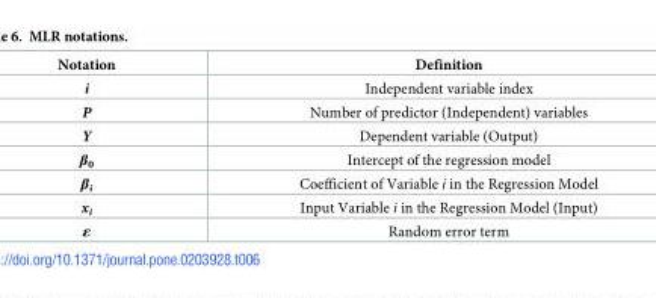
<table><thead><tr><td>Notation</td><td>Definition</td></tr></thead><tbody><tr><td>i</td><td>Independent variable index</td></tr><tr><td>P</td><td>Number of predictor (Independent) variables</td></tr><tr><td>Y</td><td>Dependent variable (Output)</td></tr><tr><td>β<sub>0</sub></td><td>Intercept of the regression model</td></tr><tr><td>β<sub>i</sub></td><td>Coefficient of Variable i in the Regression Model</td></tr><tr><td>x<sub>i</sub></td><td>Input Variable i in the Regression Model (Input)</td></tr><tr><td>ε</td><td>Random error term</td></tr></tbody></table>